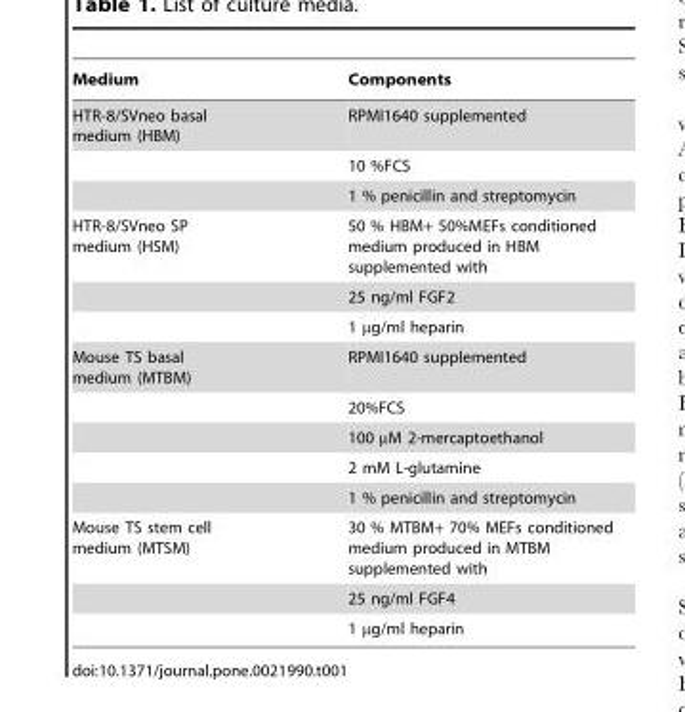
<table><thead><tr><td>Medium</td><td>Components</td></tr></thead><tbody><tr><td rowspan="3">HTR-8/SVneo basal medium (HBM)</td><td>RPMI1640 supplemented</td></tr><tr><td>10 %FCS</td></tr><tr><td>1 % penicillin and streptomycin</td></tr><tr><td rowspan="3">HTR-8/SVneo SP medium (HSM)</td><td>50 % HBM+ 50%MEFs conditioned medium produced in HBM supplemented with</td></tr><tr><td>25 ng/ml FGF2</td></tr><tr><td>1 µg/ml heparin</td></tr><tr><td rowspan="5">Mouse TS basal medium (MTBM)</td><td>RPMI1640 supplemented</td></tr><tr><td>20%FCS</td></tr><tr><td>100 µM 2-mercaptoethanol</td></tr><tr><td>2 mM L-glutamine</td></tr><tr><td>1 % penicillin and streptomycin</td></tr><tr><td rowspan="3">Mouse TS stem cell medium (MTSM)</td><td>30 % MTBM+ 70% MEFs conditioned medium produced in MTBM supplemented with</td></tr><tr><td>25 ng/ml FGF4</td></tr><tr><td>1 µg/ml heparin</td></tr></tbody></table>